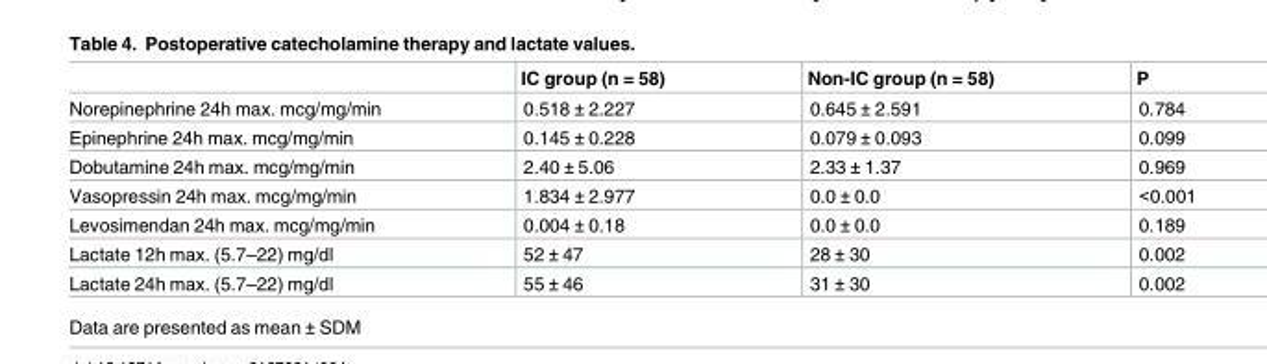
<table><thead><tr><td></td><td>IC group (n = 58)</td><td>Non-IC group (n = 58)</td><td>P</td></tr></thead><tbody><tr><td>Norepinephrine 24h max. mcg/mg/min</td><td>0.518 ± 2.227</td><td>0.645 ± 2.591</td><td>0.784</td></tr><tr><td>Epinephrine 24h max. mcg/mg/min</td><td>0.145 ± 0.228</td><td>0.079 ± 0.093</td><td>0.099</td></tr><tr><td>Dobutamine 24h max. mcg/mg/min</td><td>2.40 ± 5.06</td><td>2.33 ± 1.37</td><td>0.969</td></tr><tr><td>Vasopressin 24h max. mcg/mg/min</td><td>1.834 ± 2.977</td><td>0.0 ± 0.0</td><td>&lt;0.001</td></tr><tr><td>Levosimendan 24h max. mcg/mg/min</td><td>0.004 ± 0.18</td><td>0.0 ± 0.0</td><td>0.189</td></tr><tr><td>Lactate 12h max. (5.7–22) mg/dl</td><td>52 ± 47</td><td>28 ± 30</td><td>0.002</td></tr><tr><td>Lactate 24h max. (5.7–22) mg/dl</td><td>55 ± 46</td><td>31 ± 30</td><td>0.002</td></tr></tbody></table>